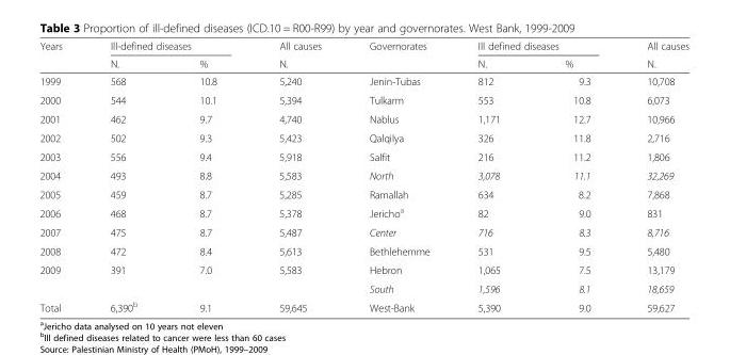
<table><thead><tr><td rowspan="2">Years</td><td colspan="2">Ill-defined diseases</td><td rowspan="2">All causes N.</td><td rowspan="2">Governorates</td><td colspan="2">Ill defined diseases</td><td rowspan="2">All causes N.</td></tr><tr><td>N.</td><td>%</td><td>N.</td><td>%</td></tr></thead><tbody><tr><td>1999</td><td>568</td><td>10.8</td><td>5,240</td><td>Jenin-Tubas</td><td>812</td><td>9.3</td><td>10,708</td></tr><tr><td>2000</td><td>544</td><td>10.1</td><td>5,394</td><td>Tulkarm</td><td>553</td><td>10.8</td><td>6,073</td></tr><tr><td>2001</td><td>462</td><td>9.7</td><td>4,740</td><td>Nablus</td><td>1,171</td><td>12.7</td><td>10,966</td></tr><tr><td>2002</td><td>502</td><td>9.3</td><td>5,423</td><td>Qalqilya</td><td>326</td><td>11.8</td><td>2,716</td></tr><tr><td>2003</td><td>556</td><td>9.4</td><td>5,918</td><td>Salfit</td><td>216</td><td>11.2</td><td>1,806</td></tr><tr><td>2004</td><td>493</td><td>8.8</td><td>5,583</td><td>North</td><td>3,078</td><td>11.1</td><td>32,269</td></tr><tr><td>2005</td><td>459</td><td>8.7</td><td>5,285</td><td>Ramallah</td><td>634</td><td>8.2</td><td>7,868</td></tr><tr><td>2006</td><td>468</td><td>8.7</td><td>5,378</td><td>Jericho<sup>a</sup></td><td>82</td><td>9.0</td><td>831</td></tr><tr><td>2007</td><td>475</td><td>8.7</td><td>5,487</td><td>Center</td><td>716</td><td>8.3</td><td>8,716</td></tr><tr><td>2008</td><td>472</td><td>8.4</td><td>5,613</td><td>Bethlehemme</td><td>531</td><td>9.5</td><td>5,480</td></tr><tr><td rowspan="2">2009</td><td>391</td><td>7.0</td><td>5,583</td><td>Hebron</td><td>1,065</td><td>7.5</td><td>13,179</td></tr><tr><td></td><td></td><td></td><td>South</td><td>1,596</td><td>8.1</td><td>18,659</td></tr><tr><td>Total</td><td>6,390<sup>b</sup></td><td>9.1</td><td>59,645</td><td>West-Bank</td><td>5,390</td><td>9.0</td><td>59,627</td></tr></tbody></table>